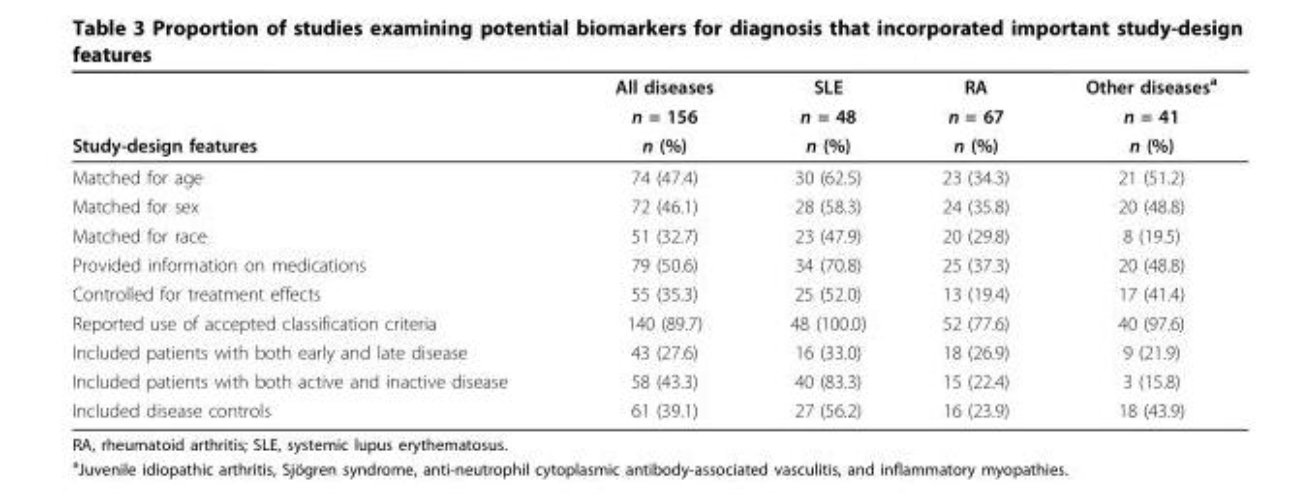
<table><thead><tr><td rowspan="3">Study-design features</td><td rowspan="3">All diseases n = 156 n (%)</td><td rowspan="3">SLE n = 48 n (%)</td><td rowspan="3">RA n = 67 n (%)</td><td rowspan="3">Other diseases<sup>a</sup> n = 41 n (%)</td></tr><tr></tr><tr></tr></thead><tbody><tr><td>Matched for age</td><td>74 (47.4)</td><td>30 (62.5)</td><td>23 (34.3)</td><td>21 (51.2)</td></tr><tr><td>Matched for sex</td><td>72 (46.1)</td><td>28 (58.3)</td><td>24 (35.8)</td><td>20 (48.8)</td></tr><tr><td>Matched for race</td><td>51 (32.7)</td><td>23 (47.9)</td><td>20 (29.8)</td><td>8 (19.5)</td></tr><tr><td>Provided information on medications</td><td>79 (50.6)</td><td>34 (70.8)</td><td>25 (37.3)</td><td>20 (48.8)</td></tr><tr><td>Controlled for treatment effects</td><td>55 (35.3)</td><td>25 (52.0)</td><td>13 (19.4)</td><td>17 (41.4)</td></tr><tr><td>Reported use of accepted classification criteria</td><td>140 (89.7)</td><td>48 (100.0)</td><td>52 (77.6)</td><td>40 (97.6)</td></tr><tr><td>Included patients with both early and late disease</td><td>43 (27.6)</td><td>16 (33.0)</td><td>18 (26.9)</td><td>9 (21.9)</td></tr><tr><td>Included patients with both active and inactive disease</td><td>58 (43.3)</td><td>40 (83.3)</td><td>15 (22.4)</td><td>3 (15.8)</td></tr><tr><td>Included disease controls</td><td>61 (39.1)</td><td>27 (56.2)</td><td>16 (23.9)</td><td>18 (43.9)</td></tr></tbody></table>